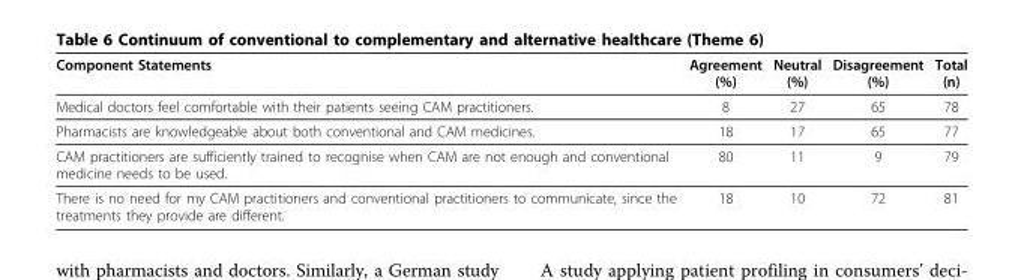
<table><thead><tr><td>Component Statements</td><td>Agreement (%)</td><td>Neutral (%)</td><td>Disagreement (%)</td><td>Total (n)</td></tr></thead><tbody><tr><td>Medical doctors feel comfortable with their patients seeing CAM practitioners.</td><td>8</td><td>27</td><td>65</td><td>78</td></tr><tr><td>Pharmacists are knowledgeable about both conventional and CAM medicines.</td><td>18</td><td>17</td><td>65</td><td>77</td></tr><tr><td>CAM practitioners are sufficiently trained to recognise when CAM are not enough and conventional medicine needs to be used.</td><td>80</td><td>11</td><td>9</td><td>79</td></tr><tr><td>There is no need for my CAM practitioners and conventional practitioners to communicate, since the treatments they provide are different.</td><td>18</td><td>10</td><td>72</td><td>81</td></tr></tbody></table>